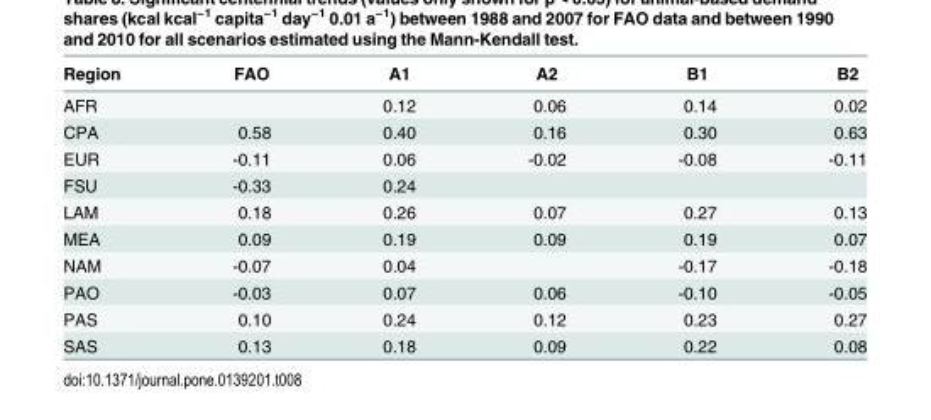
<table><thead><tr><td>Region</td><td>FAO</td><td>A1</td><td>A2</td><td>B1</td><td>B2</td></tr></thead><tbody><tr><td>AFR</td><td></td><td>0.12</td><td>0.06</td><td>0.14</td><td>0.02</td></tr><tr><td>CPA</td><td>0.58</td><td>0.40</td><td>0.16</td><td>0.30</td><td>0.63</td></tr><tr><td>EUR</td><td>-0.11</td><td>0.06</td><td>-0.02</td><td>-0.08</td><td>-0.11</td></tr><tr><td>FSU</td><td>-0.33</td><td>0.24</td><td></td><td></td><td></td></tr><tr><td>LAM</td><td>0.18</td><td>0.26</td><td>0.07</td><td>0.27</td><td>0.13</td></tr><tr><td>MEA</td><td>0.09</td><td>0.19</td><td>0.09</td><td>0.19</td><td>0.07</td></tr><tr><td>NAM</td><td>-0.07</td><td>0.04</td><td></td><td>-0.17</td><td>-0.18</td></tr><tr><td>PAO</td><td>-0.03</td><td>0.07</td><td>0.06</td><td>-0.10</td><td>-0.05</td></tr><tr><td>PAS</td><td>0.10</td><td>0.24</td><td>0.12</td><td>0.23</td><td>0.27</td></tr><tr><td>SAS</td><td>0.13</td><td>0.18</td><td>0.09</td><td>0.22</td><td>0.08</td></tr></tbody></table>